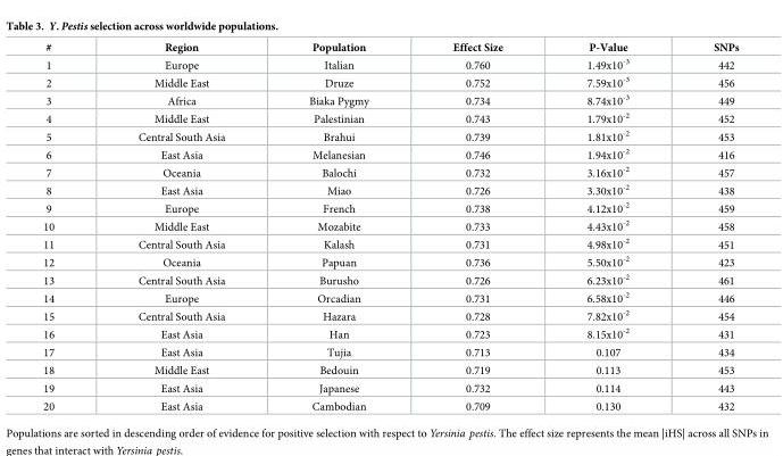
<table><thead><tr><td>#</td><td>Region</td><td>Population</td><td>Effect Size</td><td>P-Value</td><td>SNPs</td></tr></thead><tbody><tr><td>1</td><td>Europe</td><td>Italian</td><td>0.760</td><td>1.49x10<sup>-3</sup></td><td>442</td></tr><tr><td>2</td><td>Middle East</td><td>Druze</td><td>0.752</td><td>7.59x10<sup>-3</sup></td><td>456</td></tr><tr><td>3</td><td>Africa</td><td>Biaka Pygmy</td><td>0.734</td><td>8.74x10<sup>-3</sup></td><td>449</td></tr><tr><td>4</td><td>Middle East</td><td>Palestinian</td><td>0.743</td><td>1.79x10<sup>-2</sup></td><td>452</td></tr><tr><td>5</td><td>Central South Asia</td><td>Brahui</td><td>0.739</td><td>1.81x10<sup>-2</sup></td><td>453</td></tr><tr><td>6</td><td>East Asia</td><td>Melanesian</td><td>0.746</td><td>1.94x10<sup>-2</sup></td><td>416</td></tr><tr><td>7</td><td>Oceania</td><td>Balochi</td><td>0.732</td><td>3.16x10<sup>-2</sup></td><td>457</td></tr><tr><td>8</td><td>East Asia</td><td>Miao</td><td>0.726</td><td>3.30x10<sup>-2</sup></td><td>438</td></tr><tr><td>9</td><td>Europe</td><td>French</td><td>0.738</td><td>4.12x10<sup>-2</sup></td><td>459</td></tr><tr><td>10</td><td>Middle East</td><td>Mozabite</td><td>0.733</td><td>4.43x10<sup>-2</sup></td><td>458</td></tr><tr><td>11</td><td>Central South Asia</td><td>Kalash</td><td>0.731</td><td>4.98x10<sup>-2</sup></td><td>451</td></tr><tr><td>12</td><td>Oceania</td><td>Papuan</td><td>0.736</td><td>5.50x10<sup>-2</sup></td><td>423</td></tr><tr><td>13</td><td>Central South Asia</td><td>Burusho</td><td>0.726</td><td>6.23x10<sup>-2</sup></td><td>461</td></tr><tr><td>14</td><td>Europe</td><td>Orcadian</td><td>0.731</td><td>6.58x10<sup>-2</sup></td><td>446</td></tr><tr><td>15</td><td>Central South Asia</td><td>Hazara</td><td>0.728</td><td>7.82x10<sup>-2</sup></td><td>454</td></tr><tr><td>16</td><td>East Asia</td><td>Han</td><td>0.723</td><td>8.15x10<sup>-2</sup></td><td>431</td></tr><tr><td>17</td><td>East Asia</td><td>Tujia</td><td>0.713</td><td>0.107</td><td>434</td></tr><tr><td>18</td><td>Middle East</td><td>Bedouin</td><td>0.719</td><td>0.113</td><td>453</td></tr><tr><td>19</td><td>East Asia</td><td>Japanese</td><td>0.732</td><td>0.114</td><td>443</td></tr><tr><td>20</td><td>East Asia</td><td>Cambodian</td><td>0.709</td><td>0.130</td><td>432</td></tr></tbody></table>